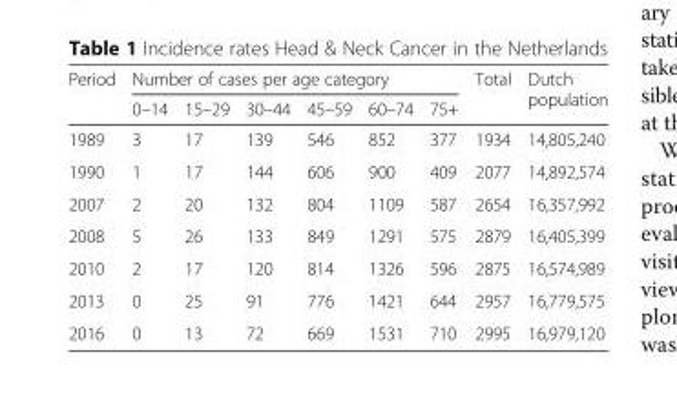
<table><thead><tr><td rowspan="2">Period</td><td colspan="6">Number of cases per age category</td><td rowspan="2">Total</td><td rowspan="2">Dutch population</td></tr><tr><td>0–14</td><td>15–29</td><td>30–44</td><td>45–59</td><td>60–74</td><td>75+</td></tr></thead><tbody><tr><td>1989</td><td>3</td><td>17</td><td>139</td><td>546</td><td>852</td><td>377</td><td>1934</td><td>14,805,240</td></tr><tr><td>1990</td><td>1</td><td>17</td><td>144</td><td>606</td><td>900</td><td>409</td><td>2077</td><td>14,892,574</td></tr><tr><td>2007</td><td>2</td><td>20</td><td>132</td><td>804</td><td>1109</td><td>587</td><td>2654</td><td>16,357,992</td></tr><tr><td>2008</td><td>5</td><td>26</td><td>133</td><td>849</td><td>1291</td><td>575</td><td>2879</td><td>16,405,399</td></tr><tr><td>2010</td><td>2</td><td>17</td><td>120</td><td>814</td><td>1326</td><td>596</td><td>2875</td><td>16,574,989</td></tr><tr><td>2013</td><td>0</td><td>25</td><td>91</td><td>776</td><td>1421</td><td>644</td><td>2957</td><td>16,779,575</td></tr><tr><td>2016</td><td>0</td><td>13</td><td>72</td><td>669</td><td>1531</td><td>710</td><td>2995</td><td>16,979,120</td></tr></tbody></table>